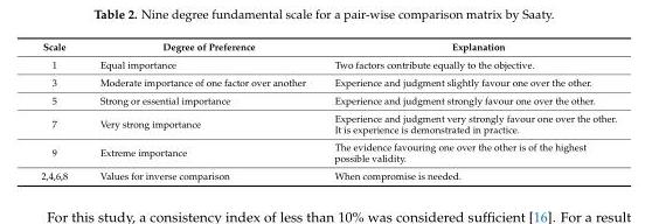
<table><thead><tr><td>Scale</td><td>Degree of Preference</td><td>Explanation</td></tr></thead><tbody><tr><td>1</td><td>Equal importance</td><td>Two factors contribute equally to the objective.</td></tr><tr><td>3</td><td>Moderate importance of one factor over another</td><td>Experience and judgment slightly favour one over the other.</td></tr><tr><td>5</td><td>Strong or essential importance</td><td>Experience and judgment strongly favour one over the other.</td></tr><tr><td>7</td><td>Very strong importance</td><td>Experience and judgment very strongly favour one over the other. It is experience is demonstrated in practice.</td></tr><tr><td>9</td><td>Extreme importance</td><td>The evidence favouring one over the other is of the highest possible validity.</td></tr><tr><td>2,4,6,8</td><td>Values for inverse comparison</td><td>When compromise is needed.</td></tr></tbody></table>